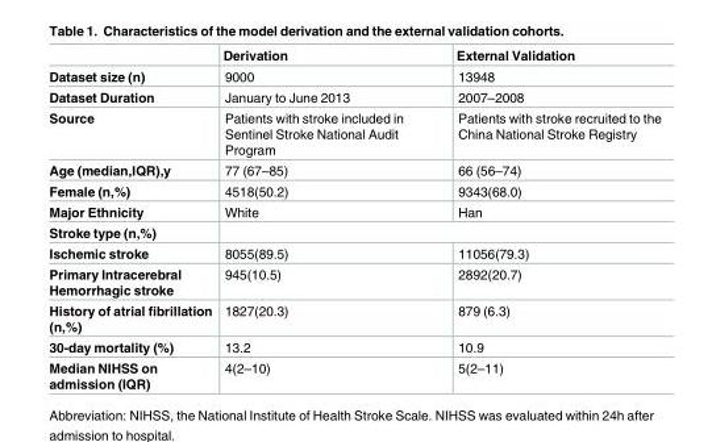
<table><thead><tr><td></td><td>Derivation</td><td>External Validation</td></tr></thead><tbody><tr><td>Dataset size (n)</td><td>9000</td><td>13948</td></tr><tr><td>Dataset Duration</td><td>January to June 2013</td><td>2007–2008</td></tr><tr><td>Source</td><td>Patients with stroke included in Sentinel Stroke National Audit Program</td><td>Patients with stroke recruited to the China National Stroke Registry</td></tr><tr><td>Age (median,IQR),y</td><td>77 (67–85)</td><td>66 (56–74)</td></tr><tr><td>Female (n,%)</td><td>4518(50.2)</td><td>9343(68.0)</td></tr><tr><td>Major Ethnicity</td><td>White</td><td>Han</td></tr><tr><td colspan="3">Stroke type (n,%)</td></tr><tr><td>Ischemic stroke</td><td>8055(89.5)</td><td>11056(79.3)</td></tr><tr><td>Primary Intracerebral Hemorrhagic stroke</td><td>945(10.5)</td><td>2892(20.7)</td></tr><tr><td>History of atrial fibrillation (n,%)</td><td>1827(20.3)</td><td>879 (6.3)</td></tr><tr><td>30-day mortality (%)</td><td>13.2</td><td>10.9</td></tr><tr><td>Median NIHSS on admission (IQR)</td><td>4(2–10)</td><td>5(2–11)</td></tr></tbody></table>